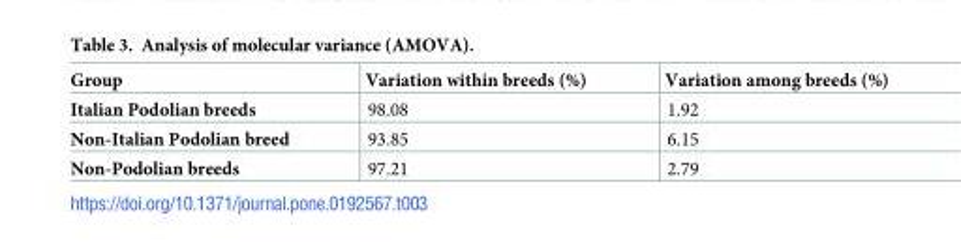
<table><thead><tr><td>Group</td><td>Variation within breeds (%)</td><td>Variation among breeds (%)</td></tr></thead><tbody><tr><td>Italian Podolian breeds</td><td>98.08</td><td>1.92</td></tr><tr><td>Non-Italian Podolian breed</td><td>93.85</td><td>6.15</td></tr><tr><td>Non-Podolian breeds</td><td>97.21</td><td>2.79</td></tr></tbody></table>